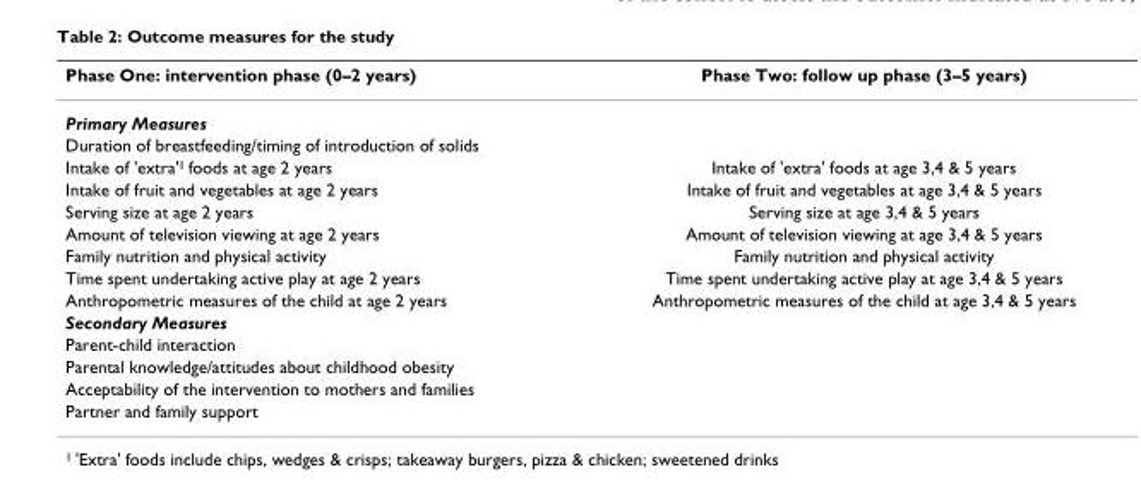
<table><thead><tr><td>Phase One: intervention phase (0–2 years)</td><td>Phase Two: follow up phase (3–5 years)</td></tr></thead><tbody><tr><td colspan="2">Primary Measures</td></tr><tr><td colspan="2">Duration of breastfeeding/timing of introduction of solids</td></tr><tr><td>Intake of &#x27;extra&#x27;<sup>1</sup> foods at age 2 years</td><td>Intake of &#x27;extra&#x27; foods at age 3,4 &amp; 5 years</td></tr><tr><td>Intake of fruit and vegetables at age 2 years</td><td>Intake of fruit and vegetables at age 3,4 &amp; 5 years</td></tr><tr><td>Serving size at age 2 years</td><td>Serving size at age 3,4 &amp; 5 years</td></tr><tr><td>Amount of television viewing at age 2 years</td><td>Amount of television viewing at age 3,4 &amp; 5 years</td></tr><tr><td>Family nutrition and physical activity</td><td>Family nutrition and physical activity</td></tr><tr><td>Time spent undertaking active play at age 2 years</td><td>Time spent undertaking active play at age 3,4 &amp; 5 years</td></tr><tr><td>Anthropometric measures of the child at age 2 years</td><td>Anthropometric measures of the child at age 3,4 &amp; 5 years</td></tr><tr><td colspan="2">Secondary Measures</td></tr><tr><td colspan="2">Parent-child interaction</td></tr><tr><td colspan="2">Parental knowledge/attitudes about childhood obesity</td></tr><tr><td colspan="2">Acceptability of the intervention to mothers and families</td></tr><tr><td>Partner and family support</td><td></td></tr></tbody></table>